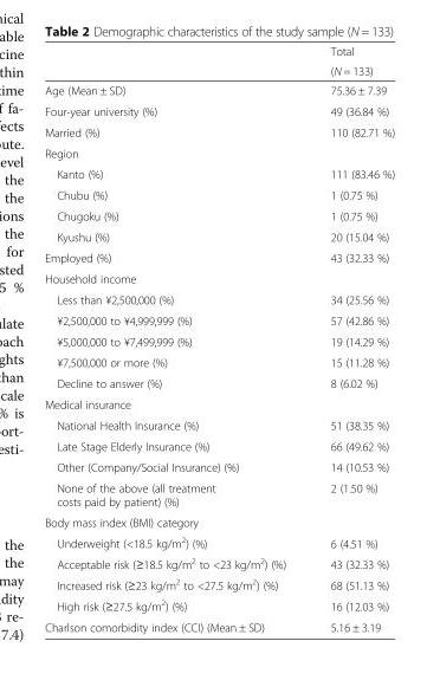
<table><thead><tr><td rowspan="2"></td><td rowspan="2">Total (N = 133)</td></tr><tr></tr></thead><tbody><tr><td>Age (Mean ± SD)</td><td>75.36 ± 7.39</td></tr><tr><td>Four-year university (%)</td><td>49 (36.84 %)</td></tr><tr><td>Married (%)</td><td>110 (82.71 %)</td></tr><tr><td colspan="2">Region</td></tr><tr><td>Kanto (%)</td><td>111 (83.46 %)</td></tr><tr><td>Chubu (%)</td><td>1 (0.75 %)</td></tr><tr><td>Chugoku (%)</td><td>1 (0.75 %)</td></tr><tr><td>Kyushu (%)</td><td>20 (15.04 %)</td></tr><tr><td>Employed (%)</td><td>43 (32.33 %)</td></tr><tr><td colspan="2">Household income</td></tr><tr><td>Less than ¥2,500,000 (%)</td><td>34 (25.56 %)</td></tr><tr><td>¥2,500,000 to ¥4,999,999 (%)</td><td>57 (42.86 %)</td></tr><tr><td>¥5,000,000 to ¥7,499,999 (%)</td><td>19 (14.29 %)</td></tr><tr><td>¥7,500,000 or more (%)</td><td>15 (11.28 %)</td></tr><tr><td>Decline to answer (%)</td><td>8 (6.02 %)</td></tr><tr><td colspan="2">Medical insurance</td></tr><tr><td>National Health Insurance (%)</td><td>51 (38.35 %)</td></tr><tr><td>Late Stage Elderly Insurance (%)</td><td>66 (49.62 %)</td></tr><tr><td>Other (Company/Social Insurance) (%)</td><td>14 (10.53 %)</td></tr><tr><td>None of the above (all treatment costs paid by patient) (%)</td><td>2 (1.50 %)</td></tr><tr><td colspan="2">Body mass index (BMI) category</td></tr><tr><td>Underweight (&lt;18.5 kg/m<sup>2</sup>) (%)</td><td>6 (4.51 %)</td></tr><tr><td>Acceptable risk (≥18.5 kg/m<sup>2</sup> to &lt;23 kg/m<sup>2</sup>) (%)</td><td>43 (32.33 %)</td></tr><tr><td>Increased risk (≥23 kg/m<sup>2</sup> to &lt;27.5 kg/m<sup>2</sup>) (%)</td><td>68 (51.13 %)</td></tr><tr><td>High risk (≥27.5 kg/m<sup>2</sup>) (%)</td><td>16 (12.03 %)</td></tr><tr><td>Charlson comorbidity index (CCI) (Mean ± SD)</td><td>5.16 ± 3.19</td></tr></tbody></table>